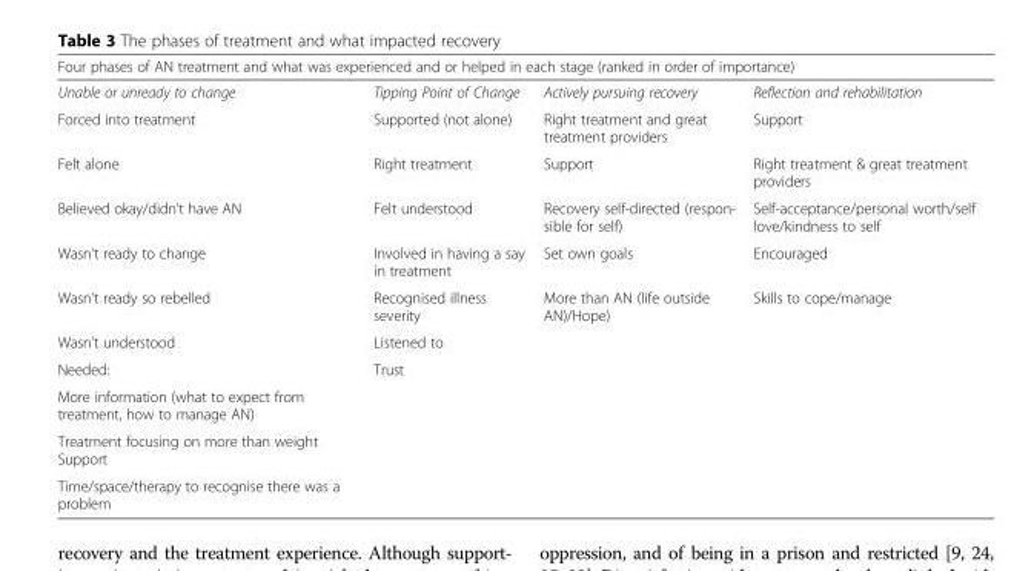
<table><thead><tr><td colspan="4">Four phases of AN treatment and what was experienced and or helped in each stage (ranked in order of importance)</td></tr><tr><td>Unable or unready to change</td><td>Tipping Point of Change</td><td>Actively pursuing recovery</td><td>Reflection and rehabilitation</td></tr></thead><tbody><tr><td>Forced into treatment</td><td>Supported (not alone)</td><td>Right treatment and great treatment providers</td><td>Support</td></tr><tr><td>Felt alone</td><td>Right treatment</td><td>Support</td><td>Right treatment &amp; great treatment providers</td></tr><tr><td>Believed okay/didn’t have AN</td><td>Felt understood</td><td>Recovery self-directed (respon- sible for self)</td><td>Self-acceptance/personal worth/self love/kindness to self</td></tr><tr><td>Wasn’t ready to change</td><td>Involved in having a say in treatment</td><td>Set own goals</td><td>Encouraged</td></tr><tr><td>Wasn’t ready so rebelled</td><td>Recognised illness severity</td><td>More than AN (life outside AN)/Hope)</td><td>Skills to cope/manage</td></tr><tr><td>Wasn’t understood</td><td>Listened to</td><td></td><td></td></tr><tr><td>Needed:</td><td>Trust</td><td></td><td></td></tr><tr><td colspan="4">More information (what to expect from treatment, how to manage AN)</td></tr><tr><td colspan="4">Treatment focusing on more than weight Support</td></tr><tr><td>Time/space/therapy to recognise there was a problem</td><td></td><td></td><td></td></tr></tbody></table>